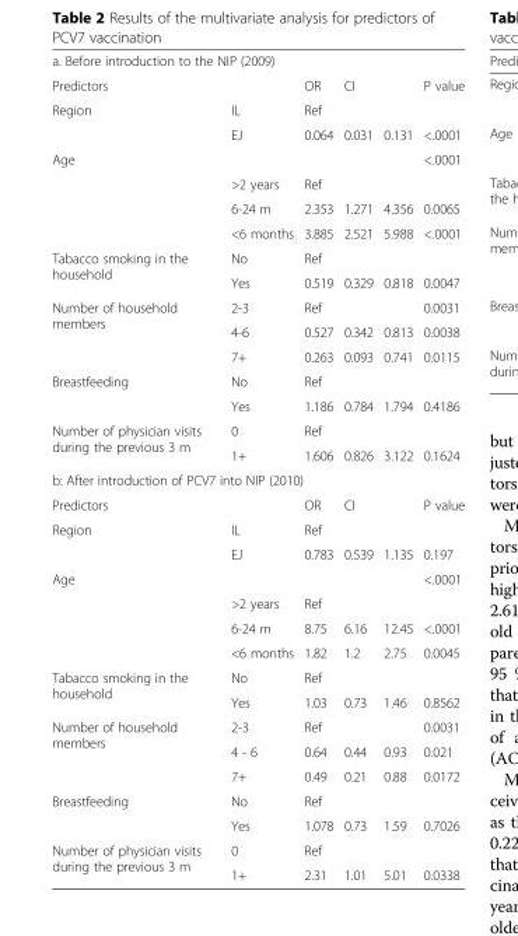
<table><tbody><tr><td colspan="6">a. Before introduction to the NIP (2009)</td></tr><tr><td>Predictors</td><td></td><td>OR</td><td colspan="2">CI</td><td>P value</td></tr><tr><td rowspan="2">Region</td><td>IL</td><td>Ref</td><td></td><td></td><td></td></tr><tr><td>EJ</td><td>0.064</td><td>0.031</td><td>0.131</td><td>&lt;.0001</td></tr><tr><td rowspan="4">Age</td><td></td><td></td><td></td><td></td><td>&lt;.0001</td></tr><tr><td>&gt;2 years</td><td>Ref</td><td></td><td></td><td></td></tr><tr><td>6-24 m</td><td>2.353</td><td>1.271</td><td>4.356</td><td>0.0065</td></tr><tr><td>&lt;6 months</td><td>3.885</td><td>2.521</td><td>5.988</td><td>&lt;.0001</td></tr><tr><td rowspan="2">Tabacco smoking in the household</td><td>No</td><td>Ref</td><td></td><td></td><td></td></tr><tr><td>Yes</td><td>0.519</td><td>0.329</td><td>0.818</td><td>0.0047</td></tr><tr><td rowspan="3">Number of household members</td><td>2-3</td><td>Ref</td><td></td><td></td><td>0.0031</td></tr><tr><td>4-6</td><td>0.527</td><td>0.342</td><td>0.813</td><td>0.0038</td></tr><tr><td>7+</td><td>0.263</td><td>0.093</td><td>0.741</td><td>0.0115</td></tr><tr><td rowspan="2">Breastfeeding</td><td>No</td><td>Ref</td><td></td><td></td><td></td></tr><tr><td>Yes</td><td>1.186</td><td>0.784</td><td>1.794</td><td>0.4186</td></tr><tr><td rowspan="2">Number of physician visits during the previous 3 m</td><td>0</td><td>Ref</td><td></td><td></td><td></td></tr><tr><td>1+</td><td>1.606</td><td>0.826</td><td>3.122</td><td>0.1624</td></tr><tr><td colspan="6">b: After introduction of PCV7 into NIP (2010)</td></tr><tr><td>Predictors</td><td></td><td>OR</td><td colspan="2">CI</td><td>P value</td></tr><tr><td rowspan="2">Region</td><td>IL</td><td>Ref</td><td></td><td></td><td></td></tr><tr><td>EJ</td><td>0.783</td><td>0.539</td><td>1.135</td><td>0.197</td></tr><tr><td rowspan="4">Age</td><td></td><td></td><td></td><td></td><td>&lt;.0001</td></tr><tr><td>&gt;2 years</td><td>Ref</td><td></td><td></td><td></td></tr><tr><td>6-24 m</td><td>8.75</td><td>6.16</td><td>12.45</td><td>&lt;.0001</td></tr><tr><td>&lt;6 months</td><td>1.82</td><td>1.2</td><td>2.75</td><td>0.0045</td></tr><tr><td rowspan="2">Tabacco smoking in the household</td><td>No</td><td>Ref</td><td></td><td></td><td></td></tr><tr><td>Yes</td><td>1.03</td><td>0.73</td><td>1.46</td><td>0.8562</td></tr><tr><td rowspan="3">Number of household members</td><td>2-3</td><td>Ref</td><td></td><td></td><td>0.0031</td></tr><tr><td>4 - 6</td><td>0.64</td><td>0.44</td><td>0.93</td><td>0.021</td></tr><tr><td>7+</td><td>0.49</td><td>0.21</td><td>0.88</td><td>0.0172</td></tr><tr><td rowspan="2">Breastfeeding</td><td>No</td><td>Ref</td><td></td><td></td><td></td></tr><tr><td>Yes</td><td>1.078</td><td>0.73</td><td>1.59</td><td>0.7026</td></tr><tr><td rowspan="2">Number of physician visits during the previous 3 m</td><td>0</td><td>Ref</td><td></td><td></td><td></td></tr><tr><td>1+</td><td>2.31</td><td>1.01</td><td>5.01</td><td>0.0338</td></tr></tbody></table>